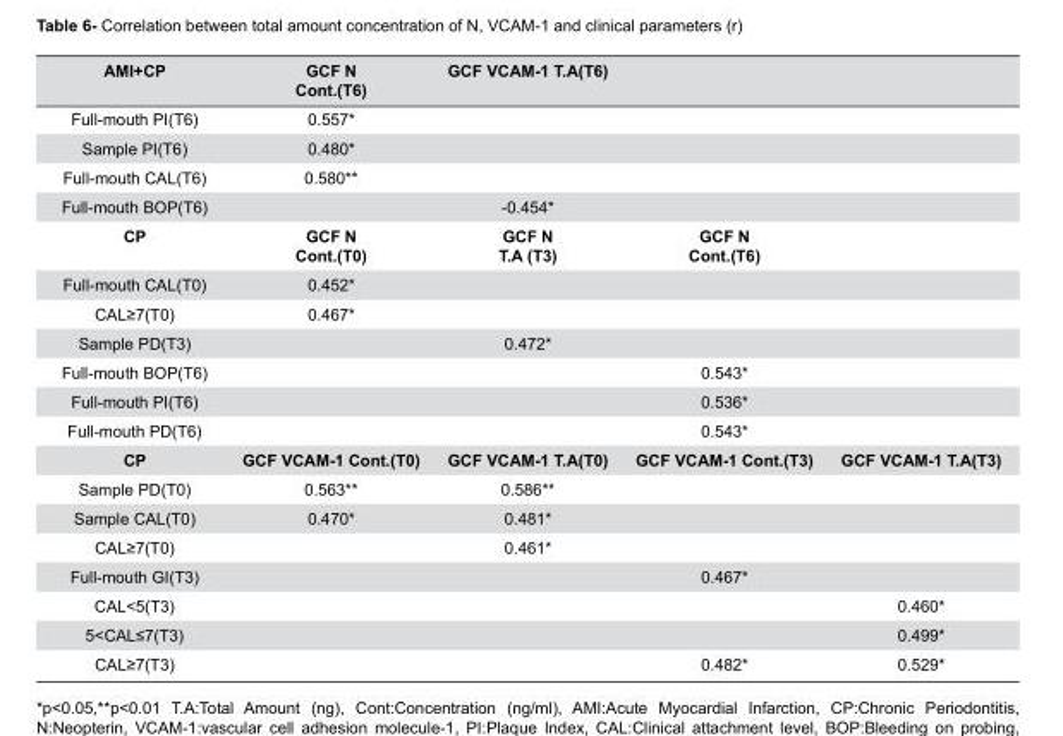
<table><thead><tr><td>AMI+CP</td><td>GCF N Cont.(T6)</td><td>GCF VCAM-1 T.A(T6)</td><td></td><td></td></tr></thead><tbody><tr><td>Full-mouth PI(T6)</td><td>0.557*</td><td></td><td></td><td></td></tr><tr><td>Sample PI(T6)</td><td>0.480*</td><td></td><td></td><td></td></tr><tr><td>Full-mouth CAL(T6)</td><td>0.580**</td><td></td><td></td><td></td></tr><tr><td>Full-mouth BOP(T6)</td><td></td><td>-0.454*</td><td></td><td></td></tr><tr><td>CP</td><td>GCF N Cont.(T0)</td><td>GCF N T.A (T3)</td><td>GCF N Cont.(T6)</td><td></td></tr><tr><td>Full-mouth CAL(T0)</td><td>0.452*</td><td></td><td></td><td></td></tr><tr><td>CAL≥7(T0)</td><td>0.467*</td><td></td><td></td><td></td></tr><tr><td>Sample PD(T3)</td><td></td><td>0.472*</td><td></td><td></td></tr><tr><td>Full-mouth BOP(T6)</td><td></td><td></td><td>0.543*</td><td></td></tr><tr><td>Full-mouth PI(T6)</td><td></td><td></td><td>0.536*</td><td></td></tr><tr><td>Full-mouth PD(T6)</td><td></td><td></td><td>0.543*</td><td></td></tr><tr><td>CP</td><td>GCF VCAM-1 Cont.(T0)</td><td>GCF VCAM-1 T.A(T0)</td><td>GCF VCAM-1 Cont.(T3)</td><td>GCF VCAM-1 T.A(T3)</td></tr><tr><td>Sample PD(T0)</td><td>0.563**</td><td>0.586**</td><td></td><td></td></tr><tr><td>Sample CAL(T0)</td><td>0.470*</td><td>0.481*</td><td></td><td></td></tr><tr><td>CAL≥7(T0)</td><td></td><td>0.461*</td><td></td><td></td></tr><tr><td>Full-mouth GI(T3)</td><td></td><td></td><td>0.467*</td><td></td></tr><tr><td>CAL&lt;5(T3)</td><td></td><td></td><td></td><td>0.460*</td></tr><tr><td>5&lt;CAL≤7(T3)</td><td></td><td></td><td></td><td>0.499*</td></tr><tr><td>CAL≥7(T3)</td><td></td><td></td><td>0.482*</td><td>0.529*</td></tr></tbody></table>